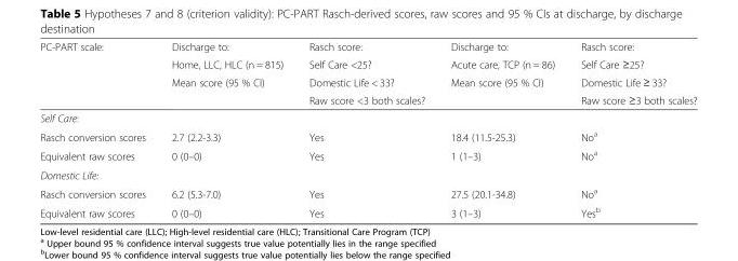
<table><thead><tr><td rowspan="4">PC-PART scale:</td><td rowspan="4">Discharge to: Home, LLC, HLC (n = 815) Mean score (95 % CI)</td><td rowspan="4">Rasch score: Self Care &lt;25? Domestic Life &lt; 33? Raw score &lt;3 both scales?</td><td rowspan="4">Discharge to: Acute care, TCP (n = 86) Mean score (95 % CI)</td><td rowspan="4">Rasch score: Self Care ≥25? Domestic Life ≥ 33? Raw score ≥3 both scales?</td></tr><tr></tr><tr></tr><tr></tr></thead><tbody><tr><td colspan="5">Self Care:</td></tr><tr><td>Rasch conversion scores</td><td>2.7 (2.2-3.3)</td><td>Yes</td><td>18.4 (11.5-25.3)</td><td>No<sup>a</sup></td></tr><tr><td>Equivalent raw scores</td><td>0 (0–0)</td><td>Yes</td><td>1 (1–3)</td><td>No<sup>a</sup></td></tr><tr><td colspan="5">Domestic Life:</td></tr><tr><td>Rasch conversion scores</td><td>6.2 (5.3-7.0)</td><td>Yes</td><td>27.5 (20.1-34.8)</td><td>No<sup>a</sup></td></tr><tr><td>Equivalent raw scores</td><td>0 (0–0)</td><td>Yes</td><td>3 (1–3)</td><td>Yes<sup>b</sup></td></tr></tbody></table>